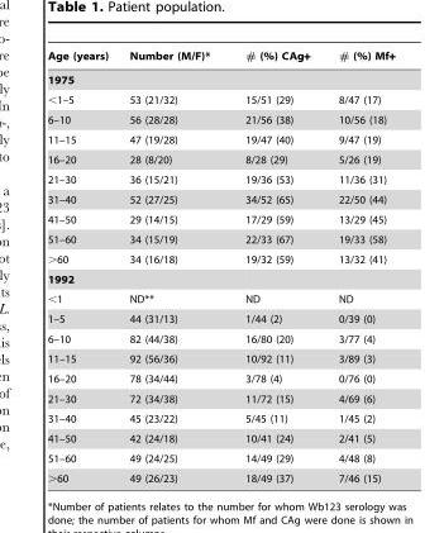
<table><thead><tr><td>Age (years)</td><td>Number (M/F)*</td><td># (%) CAg+</td><td># (%) Mf+</td></tr></thead><tbody><tr><td colspan="4">1975</td></tr><tr><td>&lt;1–5</td><td>53 (21/32)</td><td>15/51 (29)</td><td>8/47 (17)</td></tr><tr><td>6–10</td><td>56 (28/28)</td><td>21/56 (38)</td><td>10/56 (18)</td></tr><tr><td>11–15</td><td>47 (19/28)</td><td>19/47 (40)</td><td>9/47 (19)</td></tr><tr><td>16–20</td><td>28 (8/20)</td><td>8/28 (29)</td><td>5/26 (19)</td></tr><tr><td>21–30</td><td>36 (15/21)</td><td>19/36 (53)</td><td>11/36 (31)</td></tr><tr><td>31–40</td><td>52 (27/25)</td><td>34/52 (65)</td><td>22/50 (44)</td></tr><tr><td>41–50</td><td>29 (14/15)</td><td>17/29 (59)</td><td>13/29 (45)</td></tr><tr><td>51–60</td><td>34 (15/19)</td><td>22/33 (67)</td><td>19/33 (58)</td></tr><tr><td>&gt;60</td><td>34 (16/18)</td><td>19/32 (59)</td><td>13/32 (41)</td></tr><tr><td colspan="4">1992</td></tr><tr><td>&lt;1</td><td>ND**</td><td>ND</td><td>ND</td></tr><tr><td>1–5</td><td>44 (31/13)</td><td>1/44 (2)</td><td>0/39 (0)</td></tr><tr><td>6–10</td><td>82 (44/38)</td><td>16/80 (20)</td><td>3/77 (4)</td></tr><tr><td>11–15</td><td>92 (56/36)</td><td>10/92 (11)</td><td>3/89 (3)</td></tr><tr><td>16–20</td><td>78 (34/44)</td><td>3/78 (4)</td><td>0/76 (0)</td></tr><tr><td>21–30</td><td>72 (34/38)</td><td>11/72 (15)</td><td>4/69 (6)</td></tr><tr><td>31–40</td><td>45 (23/22)</td><td>5/45 (11)</td><td>1/45 (2)</td></tr><tr><td>41–50</td><td>42 (24/18)</td><td>10/41 (24)</td><td>2/41 (5)</td></tr><tr><td>51–60</td><td>49 (24/25)</td><td>14/49 (29)</td><td>4/48 (8)</td></tr><tr><td>&gt;60</td><td>49 (26/23)</td><td>18/49 (37)</td><td>7/46 (15)</td></tr></tbody></table>